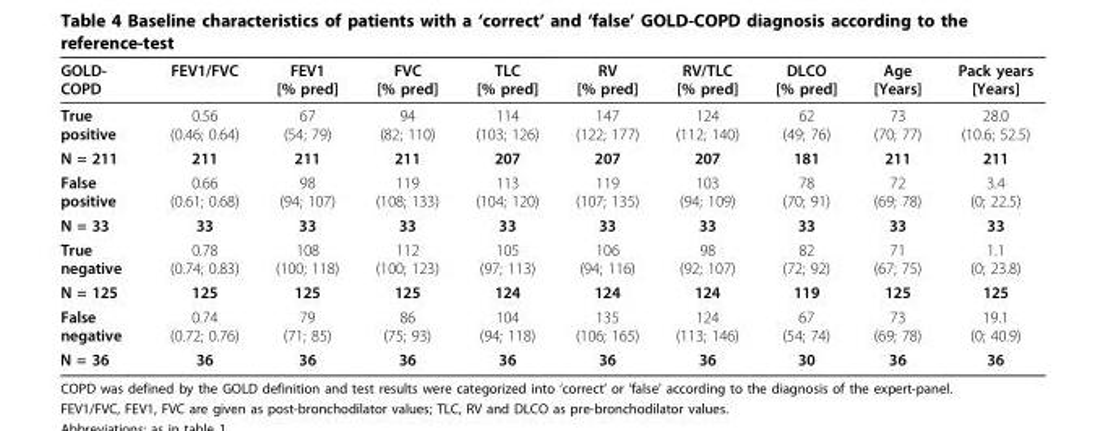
<table><thead><tr><td>GOLD- COPD</td><td>FEV1/FVC</td><td>FEV1 [% pred]</td><td>FVC [% pred]</td><td>TLC [% pred]</td><td>RV [% pred]</td><td>RV/TLC [% pred]</td><td>DLCO [% pred]</td><td>Age [Years]</td><td>Pack years [Years]</td></tr></thead><tbody><tr><td>True positive</td><td>0.56 (0.46; 0.64)</td><td>67 (54; 79)</td><td>94 (82; 110)</td><td>114 (103; 126)</td><td>147 (122; 177)</td><td>124 (112; 140)</td><td>62 (49; 76)</td><td>73 (70; 77)</td><td>28.0 (10.6; 52.5)</td></tr><tr><td>N = 211</td><td>211</td><td>211</td><td>211</td><td>207</td><td>207</td><td>207</td><td>181</td><td>211</td><td>211</td></tr><tr><td>False positive</td><td>0.66 (0.61; 0.68)</td><td>98 (94; 107)</td><td>119 (108; 133)</td><td>113 (104; 120)</td><td>119 (107; 135)</td><td>103 (94; 109)</td><td>78 (70; 91)</td><td>72 (69; 78)</td><td>3.4 (0; 22.5)</td></tr><tr><td>N = 33</td><td>33</td><td>33</td><td>33</td><td>33</td><td>33</td><td>33</td><td>33</td><td>33</td><td>33</td></tr><tr><td>True negative</td><td>0.78 (0.74; 0.83)</td><td>108 (100; 118)</td><td>112 (100; 123)</td><td>105 (97; 113)</td><td>106 (94; 116)</td><td>98 (92; 107)</td><td>82 (72; 92)</td><td>71 (67; 75)</td><td>1.1 (0; 23.8)</td></tr><tr><td>N = 125</td><td>125</td><td>125</td><td>125</td><td>124</td><td>124</td><td>124</td><td>119</td><td>125</td><td>125</td></tr><tr><td>False negative</td><td>0.74 (0.72; 0.76)</td><td>79 (71; 85)</td><td>86 (75; 93)</td><td>104 (94; 118)</td><td>135 (106; 165)</td><td>124 (113; 146)</td><td>67 (54; 74)</td><td>73 (69; 78)</td><td>19.1 (0; 40.9)</td></tr><tr><td>N = 36</td><td>36</td><td>36</td><td>36</td><td>36</td><td>36</td><td>36</td><td>30</td><td>36</td><td>36</td></tr></tbody></table>